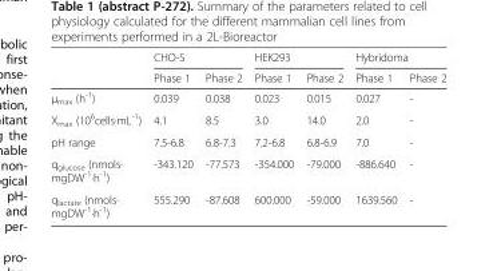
<table><thead><tr><td rowspan="2"></td><td colspan="2">CHO-S</td><td colspan="2">HEK293</td><td colspan="2">Hybridoma</td></tr><tr><td>Phase 1</td><td>Phase 2</td><td>Phase 1</td><td>Phase 2</td><td>Phase 1</td><td>Phase 2</td></tr></thead><tbody><tr><td>μ<sub>max</sub> (h<sup>-1</sup>)</td><td>0.039</td><td>0.038</td><td>0.023</td><td>0.015</td><td>0.027</td><td>-</td></tr><tr><td>X<sub>max</sub> (10<sup>6</sup>cells·mL<sup>-1</sup>)</td><td>4.1</td><td>8.5</td><td>3.0</td><td>14.0</td><td>2.0</td><td>-</td></tr><tr><td>pH range</td><td>7.5-6.8</td><td>6.8-7.3</td><td>7.2-6.8</td><td>6.8-6.9</td><td>7.0</td><td>-</td></tr><tr><td>q<sub>glucose</sub> (nmols· mgDW<sup>-1</sup>·h<sup>-1</sup>)</td><td>-343.120</td><td>-77.573</td><td>-354.000</td><td>-79.000</td><td>-886.640</td><td>-</td></tr><tr><td>q<sub>lactate</sub> (nmols· mgDW<sup>-1</sup>·h<sup>-1</sup>)</td><td>555.290</td><td>-87.608</td><td>600.000</td><td>-59.000</td><td>1639.560</td><td>-</td></tr></tbody></table>